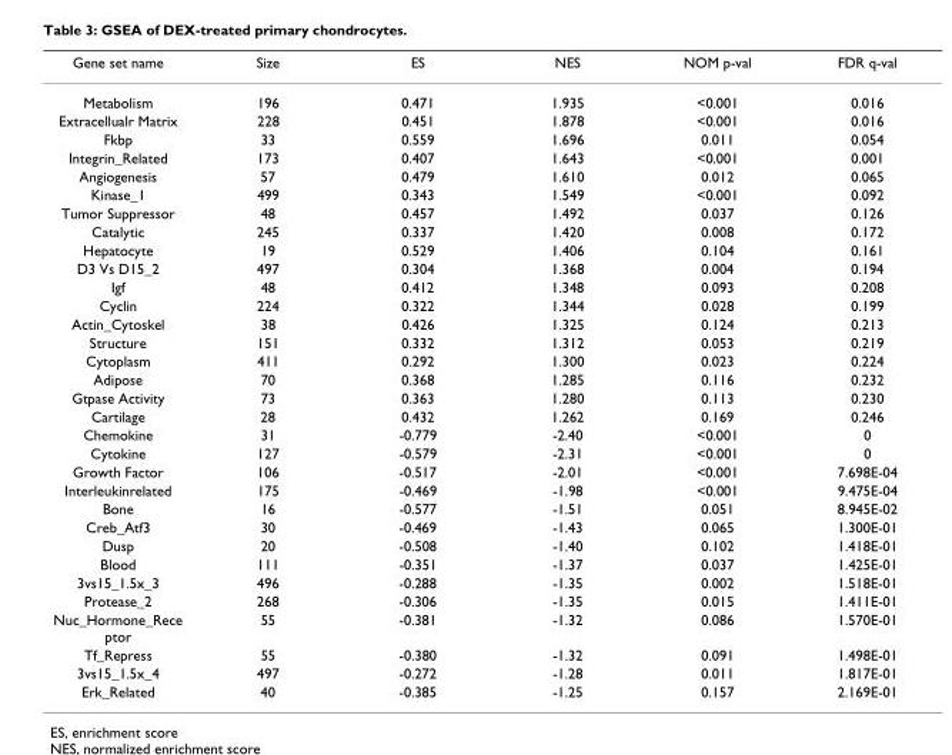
<table><thead><tr><td>Gene set name</td><td>Size</td><td>ES</td><td>NES</td><td>NOM p-val</td><td>FDR q-val</td></tr></thead><tbody><tr><td>Metabolism</td><td>196</td><td>0.471</td><td>1.935</td><td>&lt;0.001</td><td>0.016</td></tr><tr><td>Extracellualr Matrix</td><td>228</td><td>0.451</td><td>1.878</td><td>&lt;0.001</td><td>0.016</td></tr><tr><td>Fkbp</td><td>33</td><td>0.559</td><td>1.696</td><td>0.011</td><td>0.054</td></tr><tr><td>Integrin_Related</td><td>173</td><td>0.407</td><td>1.643</td><td>&lt;0.001</td><td>0.001</td></tr><tr><td>Angiogenesis</td><td>57</td><td>0.479</td><td>1.610</td><td>0.012</td><td>0.065</td></tr><tr><td>Kinase_1</td><td>499</td><td>0.343</td><td>1.549</td><td>&lt;0.001</td><td>0.092</td></tr><tr><td>Tumor Suppressor</td><td>48</td><td>0.457</td><td>1.492</td><td>0.037</td><td>0.126</td></tr><tr><td>Catalytic</td><td>245</td><td>0.337</td><td>1.420</td><td>0.008</td><td>0.172</td></tr><tr><td>Hepatocyte</td><td>19</td><td>0.529</td><td>1.406</td><td>0.104</td><td>0.161</td></tr><tr><td>D3 Vs D15_2</td><td>497</td><td>0.304</td><td>1.368</td><td>0.004</td><td>0.194</td></tr><tr><td>Igf</td><td>48</td><td>0.412</td><td>1.348</td><td>0.093</td><td>0.208</td></tr><tr><td>Cyclin</td><td>224</td><td>0.322</td><td>1.344</td><td>0.028</td><td>0.199</td></tr><tr><td>Actin_Cytoskel</td><td>38</td><td>0.426</td><td>1.325</td><td>0.124</td><td>0.213</td></tr><tr><td>Structure</td><td>151</td><td>0.332</td><td>1.312</td><td>0.053</td><td>0.219</td></tr><tr><td>Cytoplasm</td><td>411</td><td>0.292</td><td>1.300</td><td>0.023</td><td>0.224</td></tr><tr><td>Adipose</td><td>70</td><td>0.368</td><td>1.285</td><td>0.116</td><td>0.232</td></tr><tr><td>Gtpase Activity</td><td>73</td><td>0.363</td><td>1.280</td><td>0.113</td><td>0.230</td></tr><tr><td>Cartilage</td><td>28</td><td>0.432</td><td>1.262</td><td>0.169</td><td>0.246</td></tr><tr><td>Chemokine</td><td>31</td><td>-0.779</td><td>-2.40</td><td>&lt;0.001</td><td>0</td></tr><tr><td>Cytokine</td><td>127</td><td>-0.579</td><td>-2.31</td><td>&lt;0.001</td><td>0</td></tr><tr><td>Growth Factor</td><td>106</td><td>-0.517</td><td>-2.01</td><td>&lt;0.001</td><td>7.698E-04</td></tr><tr><td>Interleukinrelated</td><td>175</td><td>-0.469</td><td>-1.98</td><td>&lt;0.001</td><td>9.475E-04</td></tr><tr><td>Bone</td><td>16</td><td>-0.577</td><td>-1.51</td><td>0.051</td><td>8.945E-02</td></tr><tr><td>Creb_Atf3</td><td>30</td><td>-0.469</td><td>-1.43</td><td>0.065</td><td>1.300E-01</td></tr><tr><td>Dusp</td><td>20</td><td>-0.508</td><td>-1.40</td><td>0.102</td><td>1.418E-01</td></tr><tr><td>Blood</td><td>111</td><td>-0.351</td><td>-1.37</td><td>0.037</td><td>1.425E-01</td></tr><tr><td>3vs15_1.5x_3</td><td>496</td><td>-0.288</td><td>-1.35</td><td>0.002</td><td>1.518E-01</td></tr><tr><td>Protease_2</td><td>268</td><td>-0.306</td><td>-1.35</td><td>0.015</td><td>1.411E-01</td></tr><tr><td>Nuc_Hormone_Rece ptor</td><td>55</td><td>-0.381</td><td>-1.32</td><td>0.086</td><td>1.570E-01</td></tr><tr><td>Tf_Repress</td><td>55</td><td>-0.380</td><td>-1.32</td><td>0.091</td><td>1.498E-01</td></tr><tr><td>3vs15_1.5x_4</td><td>497</td><td>-0.272</td><td>-1.28</td><td>0.011</td><td>1.817E-01</td></tr><tr><td>Erk_Related</td><td>40</td><td>-0.385</td><td>-1.25</td><td>0.157</td><td>2.169E-01</td></tr></tbody></table>